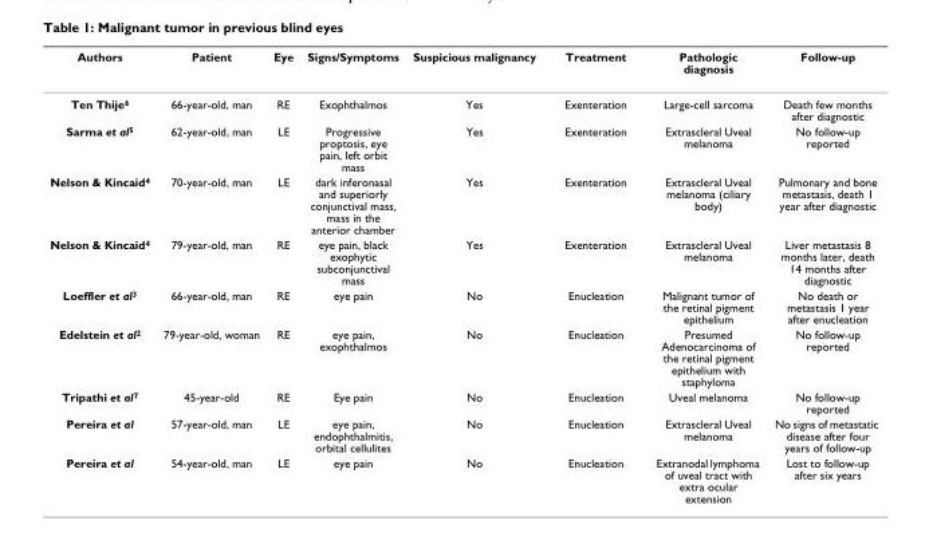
<table><thead><tr><td>Authors</td><td>Patient</td><td>Eye</td><td>Signs/Symptoms</td><td>Suspicious malignancy</td><td>Treatment</td><td>Pathologic diagnosis</td><td>Follow-up</td></tr></thead><tbody><tr><td>Ten Thije<sup>6</sup></td><td>66-year-old, man</td><td>RE</td><td>Exophthalmos</td><td>Yes</td><td>Exenteration</td><td>Large-cell sarcoma</td><td>Death few months after diagnostic</td></tr><tr><td>Sarma et al<sup>5</sup></td><td>62-year-old, man</td><td>LE</td><td>Progressive proptosis, eye pain, left orbit mass</td><td>Yes</td><td>Exenteration</td><td>Extrascleral Uveal melanoma</td><td>No follow-up reported</td></tr><tr><td>Nelson &amp; Kincaid<sup>4</sup></td><td>70-year-old, man</td><td>LE</td><td>dark inferonasal and superiorly conjunctival mass, mass in the anterior chamber</td><td>Yes</td><td>Exenteration</td><td>Extrascleral Uveal melanoma (ciliary body)</td><td>Pulmonary and bone metastasis, death 1 year after diagnostic</td></tr><tr><td>Nelson &amp; Kincaid<sup>4</sup></td><td>79-year-old, man</td><td>RE</td><td>eye pain, black exophytic subconjunctival mass</td><td>Yes</td><td>Exenteration</td><td>Extrascleral Uveal melanoma</td><td>Liver metastasis 8 months later, death 14 months after diagnostic</td></tr><tr><td>Loeffler et al<sup>3</sup></td><td>66-year-old, man</td><td>RE</td><td>eye pain</td><td>No</td><td>Enucleation</td><td>Malignant tumor of the retinal pigment epithelium</td><td>No death or metastasis 1 year after enucleation</td></tr><tr><td>Edelstein et al<sup>2</sup></td><td>79-year-old, woman</td><td>RE</td><td>eye pain, exophthalmos</td><td>No</td><td>Enucleation</td><td>Presumed Adenocarcinoma of the retinal pigment epithelium with staphyloma</td><td>No follow-up reported</td></tr><tr><td>Tripathi et al<sup>7</sup></td><td>45-year-old</td><td>RE</td><td>Eye pain</td><td>No</td><td>Enucleation</td><td>Uveal melanoma</td><td>No follow-up reported</td></tr><tr><td>Pereira et al</td><td>57-year-old, man</td><td>LE</td><td>eye pain, endophthalmitis, orbital cellulites</td><td>No</td><td>Enucleation</td><td>Extrascleral Uveal melanoma</td><td>No signs of metastatic disease after four years of follow-up</td></tr><tr><td>Pereira et al</td><td>54-year-old, man</td><td>LE</td><td>eye pain</td><td>No</td><td>Enucleation</td><td>Extranodal lymphoma of uveal tract with extra ocular extension</td><td>Lost to follow-up after six years</td></tr></tbody></table>